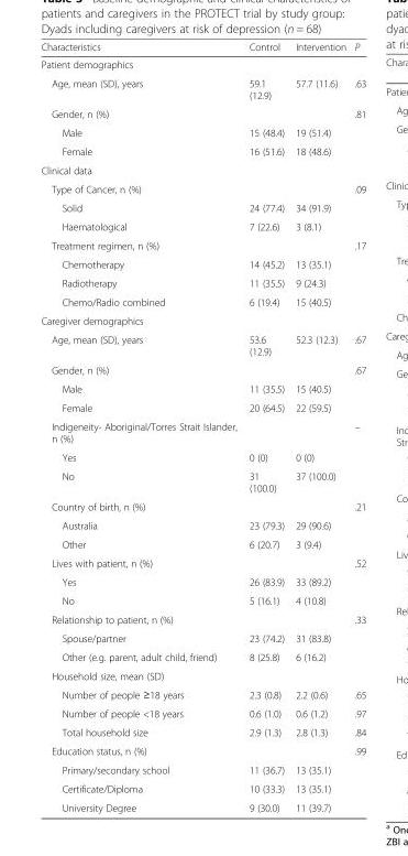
<table><thead><tr><td>Characteristics</td><td>Control</td><td>Intervention</td><td>P</td></tr></thead><tbody><tr><td colspan="4">Patient demographics</td></tr><tr><td>Age, mean (SD), years</td><td>59.1 (12.9)</td><td>57.7 (11.6)</td><td>.63</td></tr><tr><td>Gender, n (%)</td><td></td><td></td><td>.81</td></tr><tr><td>Male</td><td>15 (48.4)</td><td>19 (51.4)</td><td></td></tr><tr><td>Female</td><td>16 (51.6)</td><td>18 (48.6)</td><td></td></tr><tr><td colspan="4">Clinical data</td></tr><tr><td>Type of Cancer, n (%)</td><td></td><td></td><td>.09</td></tr><tr><td>Solid</td><td>24 (77.4)</td><td>34 (91.9)</td><td></td></tr><tr><td>Haematological</td><td>7 (22.6)</td><td>3 (8.1)</td><td></td></tr><tr><td>Treatment regimen, n (%)</td><td></td><td></td><td>.17</td></tr><tr><td>Chemotherapy</td><td>14 (45.2)</td><td>13 (35.1)</td><td></td></tr><tr><td>Radiotherapy</td><td>11 (35.5)</td><td>9 (24.3)</td><td></td></tr><tr><td>Chemo/Radio combined</td><td>6 (19.4)</td><td>15 (40.5)</td><td></td></tr><tr><td colspan="4">Caregiver demographics</td></tr><tr><td>Age, mean (SD), years</td><td>53.6 (12.9)</td><td>52.3 (12.3)</td><td>.67</td></tr><tr><td>Gender, n (%)</td><td></td><td></td><td>.67</td></tr><tr><td>Male</td><td>11 (35.5)</td><td>15 (40.5)</td><td></td></tr><tr><td>Female</td><td>20 (64.5)</td><td>22 (59.5)</td><td></td></tr><tr><td>Indigeneity- Aboriginal/Torres Strait Islander, n (%)</td><td></td><td></td><td>–</td></tr><tr><td>Yes</td><td>0 (0)</td><td>0 (0)</td><td></td></tr><tr><td>No</td><td>31 (100.0)</td><td>37 (100.0)</td><td></td></tr><tr><td>Country of birth, n (%)</td><td></td><td></td><td>.21</td></tr><tr><td>Australia</td><td>23 (79.3)</td><td>29 (90.6)</td><td></td></tr><tr><td>Other</td><td>6 (20.7)</td><td>3 (9.4)</td><td></td></tr><tr><td>Lives with patient, n (%)</td><td></td><td></td><td>.52</td></tr><tr><td>Yes</td><td>26 (83.9)</td><td>33 (89.2)</td><td></td></tr><tr><td>No</td><td>5 (16.1)</td><td>4 (10.8)</td><td></td></tr><tr><td>Relationship to patient, n (%)</td><td></td><td></td><td>.33</td></tr><tr><td>Spouse/partner</td><td>23 (74.2)</td><td>31 (83.8)</td><td></td></tr><tr><td>Other (e.g. parent, adult child, friend)</td><td>8 (25.8)</td><td>6 (16.2)</td><td></td></tr><tr><td colspan="4">Household size, mean (SD)</td></tr><tr><td>Number of people ≥18 years</td><td>2.3 (0.8)</td><td>2.2 (0.6)</td><td>.65</td></tr><tr><td>Number of people &lt;18 years</td><td>0.6 (1.0)</td><td>0.6 (1.2)</td><td>.97</td></tr><tr><td>Total household size</td><td>2.9 (1.3)</td><td>2.8 (1.3)</td><td>.84</td></tr><tr><td>Education status, n (%)</td><td></td><td></td><td>.99</td></tr><tr><td>Primary/secondary school</td><td>11 (36.7)</td><td>13 (35.1)</td><td></td></tr><tr><td>Certificate/Diploma</td><td>10 (33.3)</td><td>13 (35.1)</td><td></td></tr><tr><td>University Degree</td><td>9 (30.0)</td><td>11 (39.7)</td><td></td></tr></tbody></table>